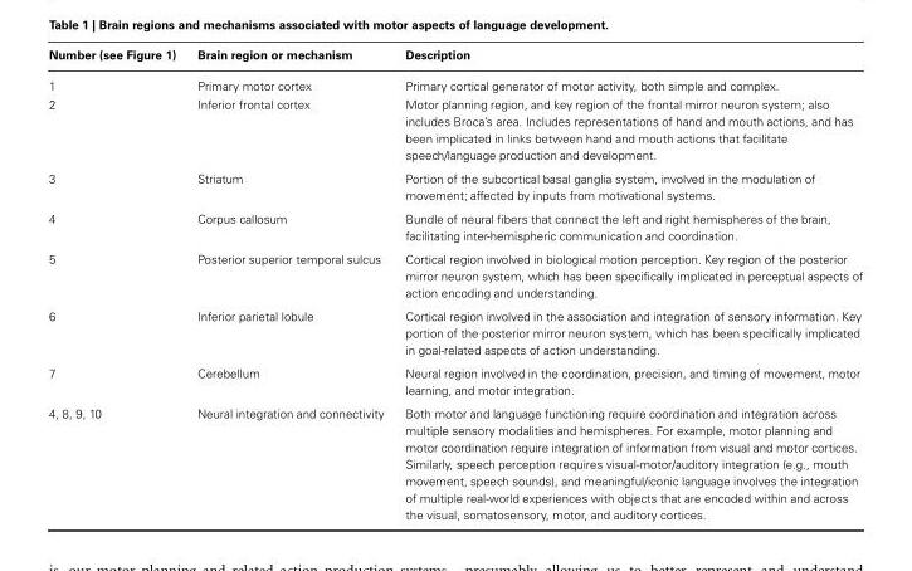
<table><thead><tr><td>Number (see Figure 1)</td><td>Brain region or mechanism</td><td>Description</td></tr></thead><tbody><tr><td>1</td><td>Primary motor cortex</td><td>Primary cortical generator of motor activity, both simple and complex.</td></tr><tr><td>2</td><td>Inferior frontal cortex</td><td>Motor planning region, and key region of the frontal mirror neuron system; also includes Broca’s area. Includes representations of hand and mouth actions, and has been implicated in links between hand and mouth actions that facilitate speech/language production and development.</td></tr><tr><td>3</td><td>Striatum</td><td>Portion of the subcortical basal ganglia system, involved in the modulation of movement; affected by inputs from motivational systems.</td></tr><tr><td>4</td><td>Corpus callosum</td><td>Bundle of neural fibers that connect the left and right hemispheres of the brain, facilitating inter-hemispheric communication and coordination.</td></tr><tr><td>5</td><td>Posterior superior temporal sulcus</td><td>Cortical region involved in biological motion perception. Key region of the posterior mirror neuron system, which has been specifically implicated in perceptual aspects of action encoding and understanding.</td></tr><tr><td>6</td><td>Inferior parietal lobule</td><td>Cortical region involved in the association and integration of sensory information. Key portion of the posterior mirror neuron system, which has been specifically implicated in goal-related aspects of action understanding.</td></tr><tr><td>7</td><td>Cerebellum</td><td>Neural region involved in the coordination, precision, and timing of movement, motor learning, and motor integration.</td></tr><tr><td>4, 8, 9, 10</td><td>Neural integration and connectivity</td><td>Both motor and language functioning require coordination and integration across multiple sensory modalities and hemispheres. For example, motor planning and motor coordination require integration of information from visual and motor cortices. Similarly, speech perception requires visual-motor/auditory integration (e.g., mouth movement, speech sounds), and meaningful/iconic language involves the integration of multiple real-world experiences with objects that are encoded within and across the visual, somatosensory, motor, and auditory cortices.</td></tr></tbody></table>